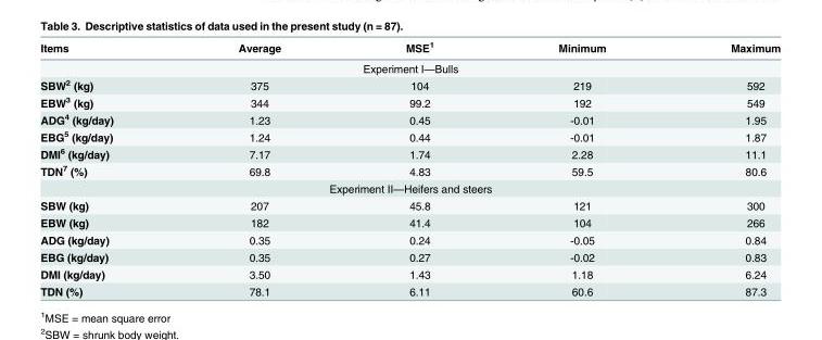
<table><thead><tr><td>Items</td><td>Average</td><td>MSE<sup>1</sup></td><td>Minimum</td><td>Maximum</td></tr></thead><tbody><tr><td colspan="5">Experiment I—Bulls</td></tr><tr><td>SBW<sup>2</sup> (kg)</td><td>375</td><td>104</td><td>219</td><td>592</td></tr><tr><td>EBW<sup>3</sup> (kg)</td><td>344</td><td>99.2</td><td>192</td><td>549</td></tr><tr><td>ADG<sup>4</sup> (kg/day)</td><td>1.23</td><td>0.45</td><td>-0.01</td><td>1.95</td></tr><tr><td>EBG<sup>5</sup> (kg/day)</td><td>1.24</td><td>0.44</td><td>-0.01</td><td>1.87</td></tr><tr><td>DMI<sup>6</sup> (kg/day)</td><td>7.17</td><td>1.74</td><td>2.28</td><td>11.1</td></tr><tr><td>TDN<sup>7</sup> (%)</td><td>69.8</td><td>4.83</td><td>59.5</td><td>80.6</td></tr><tr><td colspan="5">Experiment II—Heifers and steers</td></tr><tr><td>SBW (kg)</td><td>207</td><td>45.8</td><td>121</td><td>300</td></tr><tr><td>EBW (kg)</td><td>182</td><td>41.4</td><td>104</td><td>266</td></tr><tr><td>ADG (kg/day)</td><td>0.35</td><td>0.24</td><td>-0.05</td><td>0.84</td></tr><tr><td>EBG (kg/day)</td><td>0.35</td><td>0.27</td><td>-0.02</td><td>0.83</td></tr><tr><td>DMI (kg/day)</td><td>3.50</td><td>1.43</td><td>1.18</td><td>6.24</td></tr><tr><td>TDN (%)</td><td>78.1</td><td>6.11</td><td>60.6</td><td>87.3</td></tr></tbody></table>